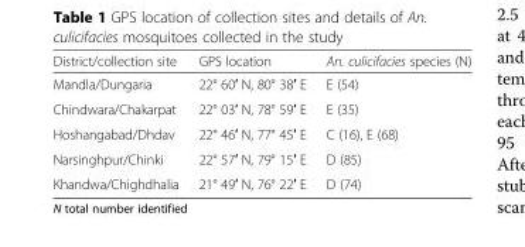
<table><thead><tr><td>District/collection site</td><td>GPS location</td><td>An. culicifacies species (N)</td></tr></thead><tbody><tr><td>Mandla/Dungaria</td><td>22° 60′ N, 80° 38′ E</td><td>E (54)</td></tr><tr><td>Chindwara/Chakarpat</td><td>22° 03′ N, 78° 59′ E</td><td>E (35)</td></tr><tr><td>Hoshangabad/Dhdav</td><td>22° 46′ N, 77° 45′ E</td><td>C (16), E (68)</td></tr><tr><td>Narsinghpur/Chinki</td><td>22° 57′ N, 79° 15′ E</td><td>D (85)</td></tr><tr><td>Khandwa/Chighdhalia</td><td>21° 49′ N, 76° 22′ E</td><td>D (74)</td></tr></tbody></table>